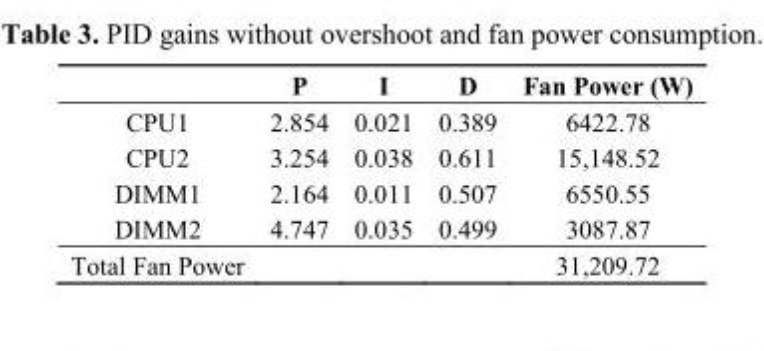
<table><thead><tr><td></td><td>P</td><td>I</td><td>D</td><td>Fan Power (W)</td></tr></thead><tbody><tr><td>CPU1</td><td>2.854</td><td>0.021</td><td>0.389</td><td>6422.78</td></tr><tr><td>CPU2</td><td>3.254</td><td>0.038</td><td>0.611</td><td>15,148.52</td></tr><tr><td>DIMM1</td><td>2.164</td><td>0.011</td><td>0.507</td><td>6550.55</td></tr><tr><td>DIMM2</td><td>4.747</td><td>0.035</td><td>0.499</td><td>3087.87</td></tr><tr><td>Total Fan Power</td><td></td><td></td><td></td><td>31,209.72</td></tr></tbody></table>